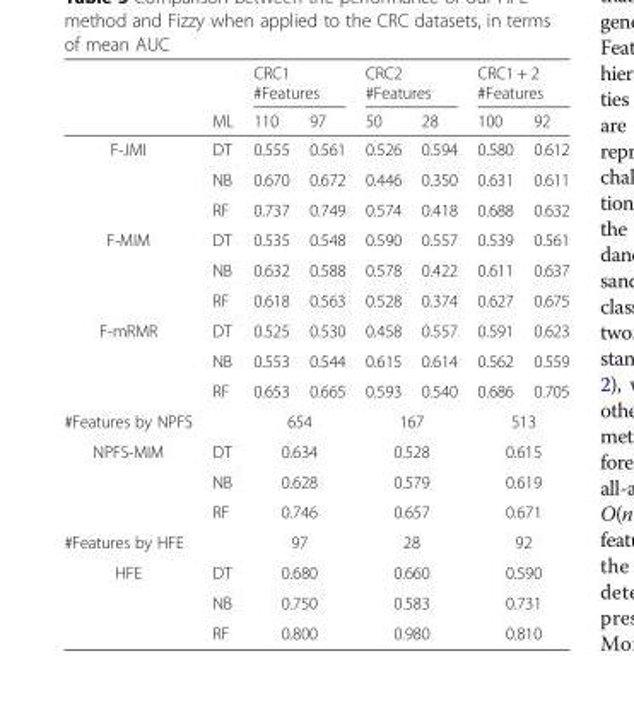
<table><thead><tr><td rowspan="2"></td><td rowspan="2">ML</td><td colspan="2">CRC1 #Features</td><td colspan="2">CRC2 #Features</td><td colspan="2">CRC1 + 2 #Features</td></tr><tr><td>110</td><td>97</td><td>50</td><td>28</td><td>100</td><td>92</td></tr></thead><tbody><tr><td rowspan="3">F-JMI</td><td>DT</td><td>0.555</td><td>0.561</td><td>0.526</td><td>0.594</td><td>0.580</td><td>0.612</td></tr><tr><td>NB</td><td>0.670</td><td>0.672</td><td>0.446</td><td>0.350</td><td>0.631</td><td>0.611</td></tr><tr><td>RF</td><td>0.737</td><td>0.749</td><td>0.574</td><td>0.418</td><td>0.688</td><td>0.632</td></tr><tr><td rowspan="3">F-MIM</td><td>DT</td><td>0.535</td><td>0.548</td><td>0.590</td><td>0.557</td><td>0.539</td><td>0.561</td></tr><tr><td>NB</td><td>0.632</td><td>0.588</td><td>0.578</td><td>0.422</td><td>0.611</td><td>0.637</td></tr><tr><td>RF</td><td>0.618</td><td>0.563</td><td>0.528</td><td>0.374</td><td>0.627</td><td>0.675</td></tr><tr><td rowspan="3">F-mRMR</td><td>DT</td><td>0.525</td><td>0.530</td><td>0.458</td><td>0.557</td><td>0.591</td><td>0.623</td></tr><tr><td>NB</td><td>0.553</td><td>0.544</td><td>0.615</td><td>0.614</td><td>0.562</td><td>0.559</td></tr><tr><td>RF</td><td>0.653</td><td>0.665</td><td>0.593</td><td>0.540</td><td>0.686</td><td>0.705</td></tr><tr><td>#Features by NPFS</td><td></td><td colspan="2">654</td><td colspan="2">167</td><td colspan="2">513</td></tr><tr><td rowspan="3">NPFS-MIM</td><td>DT</td><td colspan="2">0.634</td><td colspan="2">0.528</td><td colspan="2">0.615</td></tr><tr><td>NB</td><td colspan="2">0.628</td><td colspan="2">0.579</td><td colspan="2">0.619</td></tr><tr><td>RF</td><td colspan="2">0.746</td><td colspan="2">0.657</td><td colspan="2">0.671</td></tr><tr><td>#Features by HFE</td><td></td><td colspan="2">97</td><td colspan="2">28</td><td colspan="2">92</td></tr><tr><td rowspan="3">HFE</td><td>DT</td><td colspan="2">0.680</td><td colspan="2">0.660</td><td colspan="2">0.590</td></tr><tr><td>NB</td><td colspan="2">0.750</td><td colspan="2">0.583</td><td colspan="2">0.731</td></tr><tr><td>RF</td><td colspan="2">0.800</td><td colspan="2">0.980</td><td colspan="2">0.810</td></tr></tbody></table>